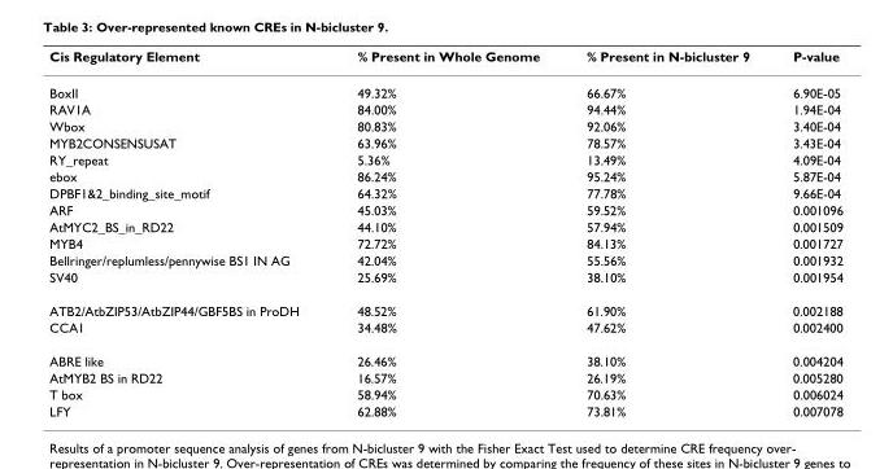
<table><thead><tr><td>Cis Regulatory Element</td><td>% Present in Whole Genome</td><td>% Present in N-bicluster 9</td><td>P-value</td></tr></thead><tbody><tr><td>BoxII</td><td>49.32%</td><td>66.67%</td><td>6.90E-05</td></tr><tr><td>RAV1A</td><td>84.00%</td><td>94.44%</td><td>1.94E-04</td></tr><tr><td>Wbox</td><td>80.83%</td><td>92.06%</td><td>3.40E-04</td></tr><tr><td>MYB2CONSENSUSAT</td><td>63.96%</td><td>78.57%</td><td>3.43E-04</td></tr><tr><td>RY_repeat</td><td>5.36%</td><td>13.49%</td><td>4.09E-04</td></tr><tr><td>ebox</td><td>86.24%</td><td>95.24%</td><td>5.87E-04</td></tr><tr><td>DPBF1&amp;2_binding_site_motif</td><td>64.32%</td><td>77.78%</td><td>9.66E-04</td></tr><tr><td>ARF</td><td>45.03%</td><td>59.52%</td><td>0.001096</td></tr><tr><td>AtMYC2_BS_in_RD22</td><td>44.10%</td><td>57.94%</td><td>0.001509</td></tr><tr><td>MYB4</td><td>72.72%</td><td>84.13%</td><td>0.001727</td></tr><tr><td>Bellringer/replumless/pennywise BS1 IN AG</td><td>42.04%</td><td>55.56%</td><td>0.001932</td></tr><tr><td>SV40</td><td>25.69%</td><td>38.10%</td><td>0.001954</td></tr><tr><td>ATB2/AtbZIP53/AtbZIP44/GBF5BS in ProDH</td><td>48.52%</td><td>61.90%</td><td>0.002188</td></tr><tr><td>CCA1</td><td>34.48%</td><td>47.62%</td><td>0.002400</td></tr><tr><td>ABRE like</td><td>26.46%</td><td>38.10%</td><td>0.004204</td></tr><tr><td>AtMYB2 BS in RD22</td><td>16.57%</td><td>26.19%</td><td>0.005280</td></tr><tr><td>T box</td><td>58.94%</td><td>70.63%</td><td>0.006024</td></tr><tr><td>LFY</td><td>62.88%</td><td>73.81%</td><td>0.007078</td></tr></tbody></table>